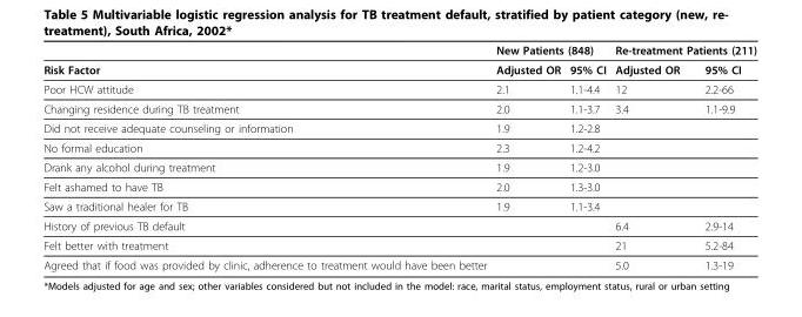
<table><thead><tr><td rowspan="2">Risk Factor</td><td colspan="2">New Patients (848)</td><td colspan="2">Re-treatment Patients (211)</td></tr><tr><td>Adjusted OR</td><td>95% CI</td><td>Adjusted OR</td><td>95% CI</td></tr></thead><tbody><tr><td>Poor HCW attitude</td><td>2.1</td><td>1.1-4.4</td><td>12</td><td>2.2-66</td></tr><tr><td>Changing residence during TB treatment</td><td>2.0</td><td>1.1-3.7</td><td>3.4</td><td>1.1-9.9</td></tr><tr><td>Did not receive adequate counseling or information</td><td>1.9</td><td>1.2-2.8</td><td></td><td></td></tr><tr><td>No formal education</td><td>2.3</td><td>1.2-4.2</td><td></td><td></td></tr><tr><td>Drank any alcohol during treatment</td><td>1.9</td><td>1.2-3.0</td><td></td><td></td></tr><tr><td>Felt ashamed to have TB</td><td>2.0</td><td>1.3-3.0</td><td></td><td></td></tr><tr><td>Saw a traditional healer for TB</td><td>1.9</td><td>1.1-3.4</td><td></td><td></td></tr><tr><td>History of previous TB default</td><td></td><td></td><td>6.4</td><td>2.9-14</td></tr><tr><td>Felt better with treatment</td><td></td><td></td><td>21</td><td>5.2-84</td></tr><tr><td>Agreed that if food was provided by clinic, adherence to treatment would have been better</td><td></td><td></td><td>5.0</td><td>1.3-19</td></tr></tbody></table>